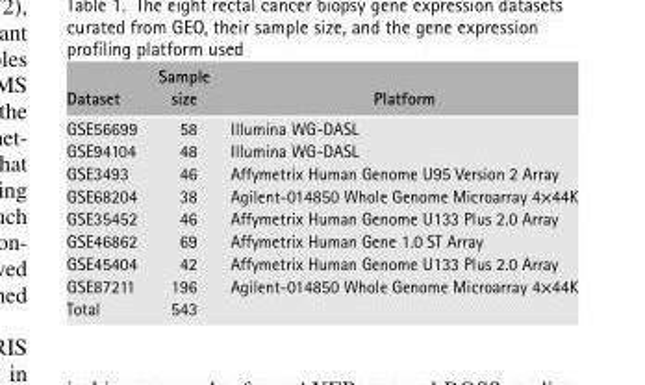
<table><thead><tr><td>Dataset</td><td>Sample size</td><td>Platform</td></tr></thead><tbody><tr><td>GSE56699</td><td>58</td><td>Illumina WG-DASL</td></tr><tr><td>GSE94104</td><td>48</td><td>Illumina WG-DASL</td></tr><tr><td>GSE3493</td><td>46</td><td>Affymetrix Human Genome U95 Version 2 Array</td></tr><tr><td>GSE68204</td><td>38</td><td>Agilent-014850 Whole Genome Microarray 4×44K</td></tr><tr><td>GSE35452</td><td>46</td><td>Affymetrix Human Genome U133 Plus 2.0 Array</td></tr><tr><td>GSE46862</td><td>69</td><td>Affymetrix Human Gene 1.0 ST Array</td></tr><tr><td>GSE45404</td><td>42</td><td>Affymetrix Human Genome U133 Plus 2.0 Array</td></tr><tr><td>GSE87211</td><td>196</td><td>Agilent-014850 Whole Genome Microarray 4×44K</td></tr><tr><td>Total</td><td>543</td><td></td></tr></tbody></table>